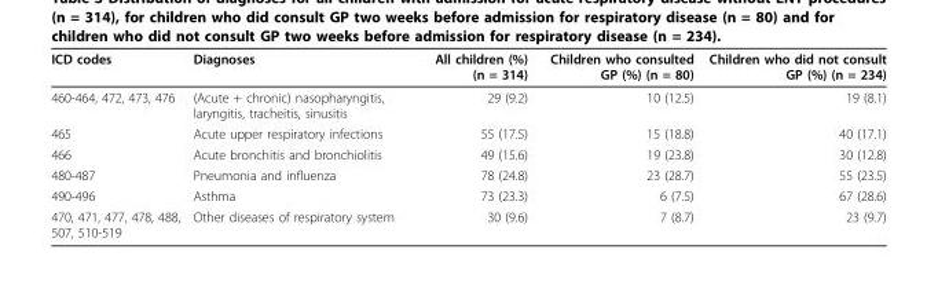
<table><thead><tr><td>ICD codes</td><td>Diagnoses</td><td>All children (%) (n = 314)</td><td>Children who consulted GP (%) (n = 80)</td><td>Children who did not consult GP (%) (n = 234)</td></tr></thead><tbody><tr><td>460-464, 472, 473, 476</td><td>(Acute + chronic) nasopharyngitis, laryngitis, tracheitis, sinusitis</td><td>29 (9.2)</td><td>10 (12.5)</td><td>19 (8.1)</td></tr><tr><td>465</td><td>Acute upper respiratory infections</td><td>55 (17.5)</td><td>15 (18.8)</td><td>40 (17.1)</td></tr><tr><td>466</td><td>Acute bronchitis and bronchiolitis</td><td>49 (15.6)</td><td>19 (23.8)</td><td>30 (12.8)</td></tr><tr><td>480-487</td><td>Pneumonia and influenza</td><td>78 (24.8)</td><td>23 (28.7)</td><td>55 (23.5)</td></tr><tr><td>490-496</td><td>Asthma</td><td>73 (23.3)</td><td>6 (7.5)</td><td>67 (28.6)</td></tr><tr><td>470, 471, 477, 478, 488, 507, 510-519</td><td>Other diseases of respiratory system</td><td>30 (9.6)</td><td>7 (8.7)</td><td>23 (9.7)</td></tr></tbody></table>